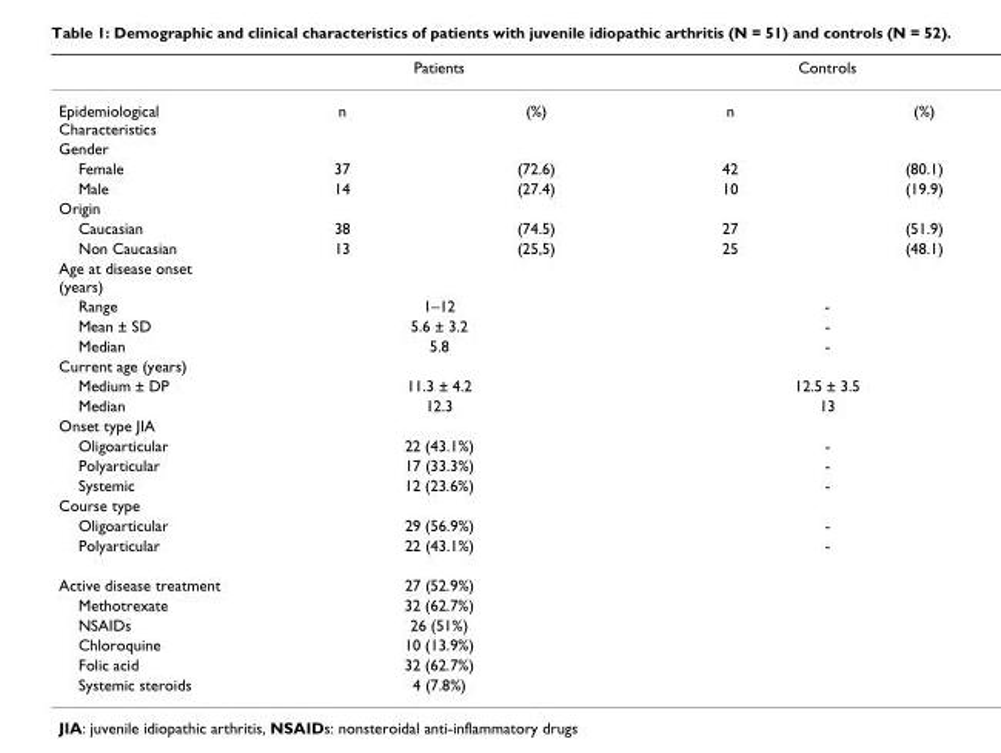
<table><thead><tr><td rowspan="2">Epidemiological Characteristics</td><td colspan="2">Patients</td><td colspan="2">Controls</td></tr><tr><td>n</td><td>(%)</td><td>n</td><td>(%)</td></tr></thead><tbody><tr><td colspan="5">Gender</td></tr><tr><td>Female</td><td>37</td><td>(72.6)</td><td>42</td><td>(80.1)</td></tr><tr><td>Male</td><td>14</td><td>(27.4)</td><td>10</td><td>(19.9)</td></tr><tr><td colspan="5">Origin</td></tr><tr><td>Caucasian</td><td>38</td><td>(74.5)</td><td>27</td><td>(51.9)</td></tr><tr><td>Non Caucasian</td><td>13</td><td>(25,5)</td><td>25</td><td>(48.1)</td></tr><tr><td colspan="5">Age at disease onset (years)</td></tr><tr><td>Range</td><td colspan="2">1–12</td><td colspan="2">-</td></tr><tr><td>Mean ± SD</td><td colspan="2">5.6 ± 3.2</td><td colspan="2">-</td></tr><tr><td>Median</td><td colspan="2">5.8</td><td colspan="2">-</td></tr><tr><td colspan="5">Current age (years)</td></tr><tr><td>Medium ± DP</td><td colspan="2">11.3 ± 4.2</td><td colspan="2">12.5 ± 3.5</td></tr><tr><td>Median</td><td colspan="2">12.3</td><td colspan="2">13</td></tr><tr><td colspan="5">Onset type JIA</td></tr><tr><td>Oligoarticular</td><td colspan="2">22 (43.1%)</td><td colspan="2">-</td></tr><tr><td>Polyarticular</td><td colspan="2">17 (33.3%)</td><td colspan="2">-</td></tr><tr><td>Systemic</td><td colspan="2">12 (23.6%)</td><td colspan="2">-</td></tr><tr><td colspan="5">Course type</td></tr><tr><td>Oligoarticular</td><td colspan="2">29 (56.9%)</td><td colspan="2">-</td></tr><tr><td>Polyarticular</td><td colspan="2">22 (43.1%)</td><td colspan="2">-</td></tr><tr><td>Active disease treatment</td><td colspan="2">27 (52.9%)</td><td></td><td></td></tr><tr><td>Methotrexate</td><td colspan="2">32 (62.7%)</td><td></td><td></td></tr><tr><td>NSAIDs</td><td colspan="2">26 (51%)</td><td></td><td></td></tr><tr><td>Chloroquine</td><td colspan="2">10 (13.9%)</td><td></td><td></td></tr><tr><td>Folic acid</td><td colspan="2">32 (62.7%)</td><td></td><td></td></tr><tr><td>Systemic steroids</td><td colspan="2">4 (7.8%)</td><td></td><td></td></tr></tbody></table>